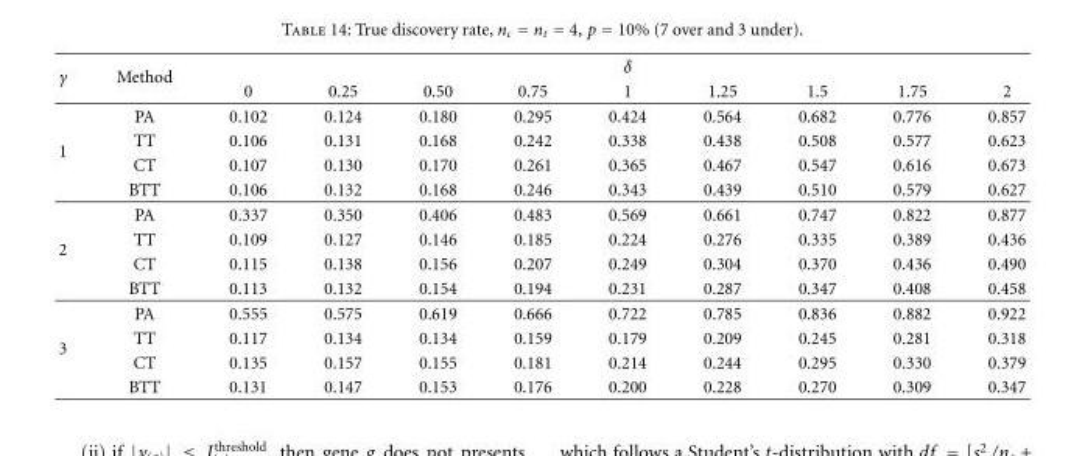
<table><thead><tr><td rowspan="2">γ</td><td rowspan="2">Method</td><td colspan="9">δ</td></tr><tr><td>0</td><td>0.25</td><td>0.50</td><td>0.75</td><td>1</td><td>1.25</td><td>1.5</td><td>1.75</td><td>2</td></tr></thead><tbody><tr><td rowspan="4">1</td><td>PA</td><td>0.102</td><td>0.124</td><td>0.180</td><td>0.295</td><td>0.424</td><td>0.564</td><td>0.682</td><td>0.776</td><td>0.857</td></tr><tr><td>TT</td><td>0.106</td><td>0.131</td><td>0.168</td><td>0.242</td><td>0.338</td><td>0.438</td><td>0.508</td><td>0.577</td><td>0.623</td></tr><tr><td>CT</td><td>0.107</td><td>0.130</td><td>0.170</td><td>0.261</td><td>0.365</td><td>0.467</td><td>0.547</td><td>0.616</td><td>0.673</td></tr><tr><td>BTT</td><td>0.106</td><td>0.132</td><td>0.168</td><td>0.246</td><td>0.343</td><td>0.439</td><td>0.510</td><td>0.579</td><td>0.627</td></tr><tr><td rowspan="4">2</td><td>PA</td><td>0.337</td><td>0.350</td><td>0.406</td><td>0.483</td><td>0.569</td><td>0.661</td><td>0.747</td><td>0.822</td><td>0.877</td></tr><tr><td>TT</td><td>0.109</td><td>0.127</td><td>0.146</td><td>0.185</td><td>0.224</td><td>0.276</td><td>0.335</td><td>0.389</td><td>0.436</td></tr><tr><td>CT</td><td>0.115</td><td>0.138</td><td>0.156</td><td>0.207</td><td>0.249</td><td>0.304</td><td>0.370</td><td>0.436</td><td>0.490</td></tr><tr><td>BTT</td><td>0.113</td><td>0.132</td><td>0.154</td><td>0.194</td><td>0.231</td><td>0.287</td><td>0.347</td><td>0.408</td><td>0.458</td></tr><tr><td rowspan="4">3</td><td>PA</td><td>0.555</td><td>0.575</td><td>0.619</td><td>0.666</td><td>0.722</td><td>0.785</td><td>0.836</td><td>0.882</td><td>0.922</td></tr><tr><td>TT</td><td>0.117</td><td>0.134</td><td>0.134</td><td>0.159</td><td>0.179</td><td>0.209</td><td>0.245</td><td>0.281</td><td>0.318</td></tr><tr><td>CT</td><td>0.135</td><td>0.157</td><td>0.155</td><td>0.181</td><td>0.214</td><td>0.244</td><td>0.295</td><td>0.330</td><td>0.379</td></tr><tr><td>BTT</td><td>0.131</td><td>0.147</td><td>0.153</td><td>0.176</td><td>0.200</td><td>0.228</td><td>0.270</td><td>0.309</td><td>0.347</td></tr></tbody></table>